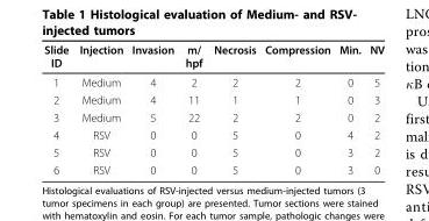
<table><thead><tr><td>Slide ID</td><td>Injection</td><td>Invasion</td><td>m/ hpf</td><td>Necrosis</td><td>Compression</td><td>Min.</td><td>NV</td></tr></thead><tbody><tr><td>1</td><td>Medium</td><td>4</td><td>2</td><td>2</td><td>2</td><td>0</td><td>5</td></tr><tr><td>2</td><td>Medium</td><td>4</td><td>11</td><td>1</td><td>1</td><td>0</td><td>3</td></tr><tr><td>3</td><td>Medium</td><td>5</td><td>22</td><td>2</td><td>2</td><td>0</td><td>2</td></tr><tr><td>4</td><td>RSV</td><td>0</td><td>0</td><td>5</td><td>0</td><td>4</td><td>2</td></tr><tr><td>5</td><td>RSV</td><td>0</td><td>0</td><td>5</td><td>0</td><td>3</td><td>2</td></tr><tr><td>6</td><td>RSV</td><td>0</td><td>0</td><td>5</td><td>0</td><td>3</td><td>0</td></tr></tbody></table>